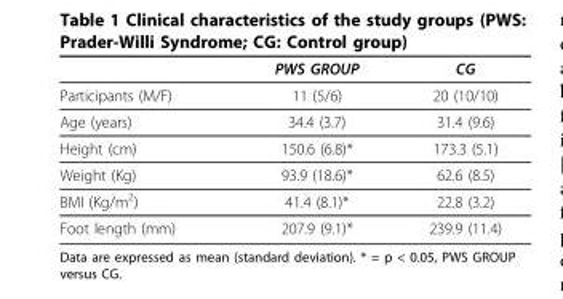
<table><thead><tr><td></td><td>PWS GROUP</td><td>CG</td></tr></thead><tbody><tr><td>Participants (M/F)</td><td>11 (5/6)</td><td>20 (10/10)</td></tr><tr><td>Age (years)</td><td>34.4 (3.7)</td><td>31.4 (9.6)</td></tr><tr><td>Height (cm)</td><td>150.6 (6.8)*</td><td>173.3 (5.1)</td></tr><tr><td>Weight (Kg)</td><td>93.9 (18.6)*</td><td>62.6 (8.5)</td></tr><tr><td>BMI (Kg/m<sup>2</sup>)</td><td>41.4 (8.1)*</td><td>22.8 (3.2)</td></tr><tr><td>Foot length (mm)</td><td>207.9 (9.1)*</td><td>239.9 (11.4)</td></tr></tbody></table>